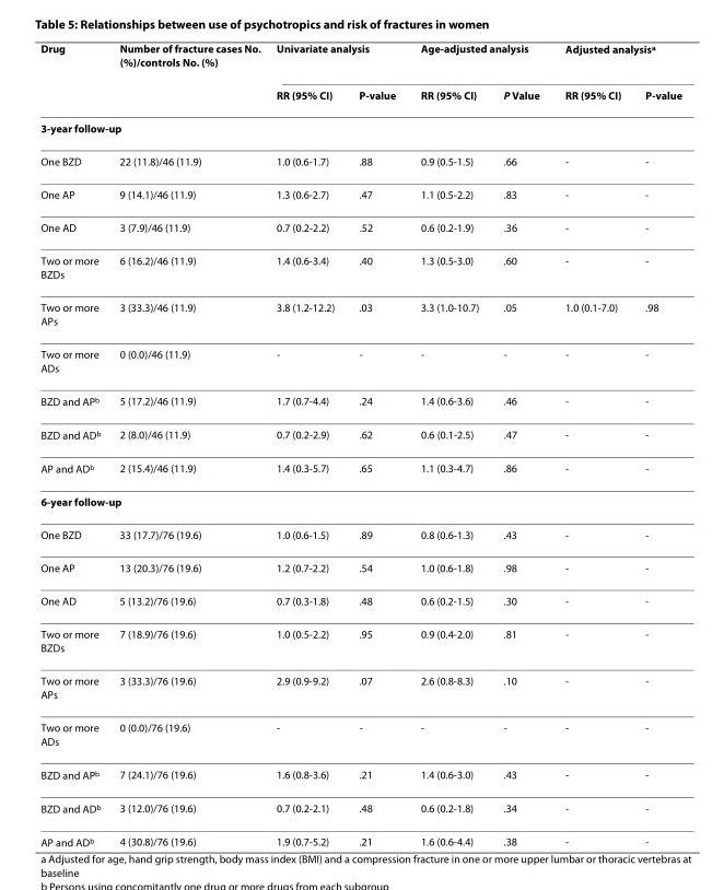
<table><thead><tr><td rowspan="2">Drug</td><td rowspan="2">Number of fracture cases No. (%)/controls No. (%)</td><td colspan="2">Univariate analysis</td><td colspan="2">Age-adjusted analysis</td><td colspan="2">Adjusted analysis<sup>a</sup></td></tr><tr><td>RR (95% CI)</td><td>P-value</td><td>RR (95% CI)</td><td>P Value</td><td>RR (95% CI)</td><td>P-value</td></tr></thead><tbody><tr><td colspan="8">3-year follow-up</td></tr><tr><td>One BZD</td><td>22 (11.8)/46 (11.9)</td><td>1.0 (0.6-1.7)</td><td>.88</td><td>0.9 (0.5-1.5)</td><td>.66</td><td>-</td><td>-</td></tr><tr><td>One AP</td><td>9 (14.1)/46 (11.9)</td><td>1.3 (0.6-2.7)</td><td>.47</td><td>1.1 (0.5-2.2)</td><td>.83</td><td>-</td><td>-</td></tr><tr><td>One AD</td><td>3 (7.9)/46 (11.9)</td><td>0.7 (0.2-2.2)</td><td>.52</td><td>0.6 (0.2-1.9)</td><td>.36</td><td>-</td><td>-</td></tr><tr><td>Two or more BZDs</td><td>6 (16.2)/46 (11.9)</td><td>1.4 (0.6-3.4)</td><td>.40</td><td>1.3 (0.5-3.0)</td><td>.60</td><td>-</td><td>-</td></tr><tr><td>Two or more APs</td><td>3 (33.3)/46 (11.9)</td><td>3.8 (1.2-12.2)</td><td>.03</td><td>3.3 (1.0-10.7)</td><td>.05</td><td>1.0 (0.1-7.0)</td><td>.98</td></tr><tr><td>Two or more ADs</td><td>0 (0.0)/46 (11.9)</td><td>-</td><td>-</td><td>-</td><td>-</td><td>-</td><td>-</td></tr><tr><td>BZD and AP<sup>b</sup></td><td>5 (17.2)/46 (11.9)</td><td>1.7 (0.7-4.4)</td><td>.24</td><td>1.4 (0.6-3.6)</td><td>.46</td><td>-</td><td>-</td></tr><tr><td>BZD and AD<sup>b</sup></td><td>2 (8.0)/46 (11.9)</td><td>0.7 (0.2-2.9)</td><td>.62</td><td>0.6 (0.1-2.5)</td><td>.47</td><td>-</td><td>-</td></tr><tr><td>AP and AD<sup>b</sup></td><td>2 (15.4)/46 (11.9)</td><td>1.4 (0.3-5.7)</td><td>.65</td><td>1.1 (0.3-4.7)</td><td>.86</td><td>-</td><td>-</td></tr><tr><td colspan="8">6-year follow-up</td></tr><tr><td>One BZD</td><td>33 (17.7)/76 (19.6)</td><td>1.0 (0.6-1.5)</td><td>.89</td><td>0.8 (0.6-1.3)</td><td>.43</td><td>-</td><td>-</td></tr><tr><td>One AP</td><td>13 (20.3)/76 (19.6)</td><td>1.2 (0.7-2.2)</td><td>.54</td><td>1.0 (0.6-1.8)</td><td>.98</td><td>-</td><td>-</td></tr><tr><td>One AD</td><td>5 (13.2)/76 (19.6)</td><td>0.7 (0.3-1.8)</td><td>.48</td><td>0.6 (0.2-1.5)</td><td>.30</td><td>-</td><td>-</td></tr><tr><td>Two or more BZDs</td><td>7 (18.9)/76 (19.6)</td><td>1.0 (0.5-2.2)</td><td>.95</td><td>0.9 (0.4-2.0)</td><td>.81</td><td>-</td><td>-</td></tr><tr><td>Two or more APs</td><td>3 (33.3)/76 (19.6)</td><td>2.9 (0.9-9.2)</td><td>.07</td><td>2.6 (0.8-8.3)</td><td>.10</td><td>-</td><td>-</td></tr><tr><td>Two or more ADs</td><td>0 (0.0)/76 (19.6)</td><td>-</td><td>-</td><td>-</td><td>-</td><td>-</td><td>-</td></tr><tr><td>BZD and AP<sup>b</sup></td><td>7 (24.1)/76 (19.6)</td><td>1.6 (0.8-3.6)</td><td>.21</td><td>1.4 (0.6-3.0)</td><td>.43</td><td>-</td><td>-</td></tr><tr><td>BZD and AD<sup>b</sup></td><td>3 (12.0)/76 (19.6)</td><td>0.7 (0.2-2.1)</td><td>.48</td><td>0.6 (0.2-1.8)</td><td>.34</td><td>-</td><td>-</td></tr><tr><td>AP and AD<sup>b</sup></td><td>4 (30.8)/76 (19.6)</td><td>1.9 (0.7-5.2)</td><td>.21</td><td>1.6 (0.6-4.4)</td><td>.38</td><td>-</td><td>-</td></tr></tbody></table>